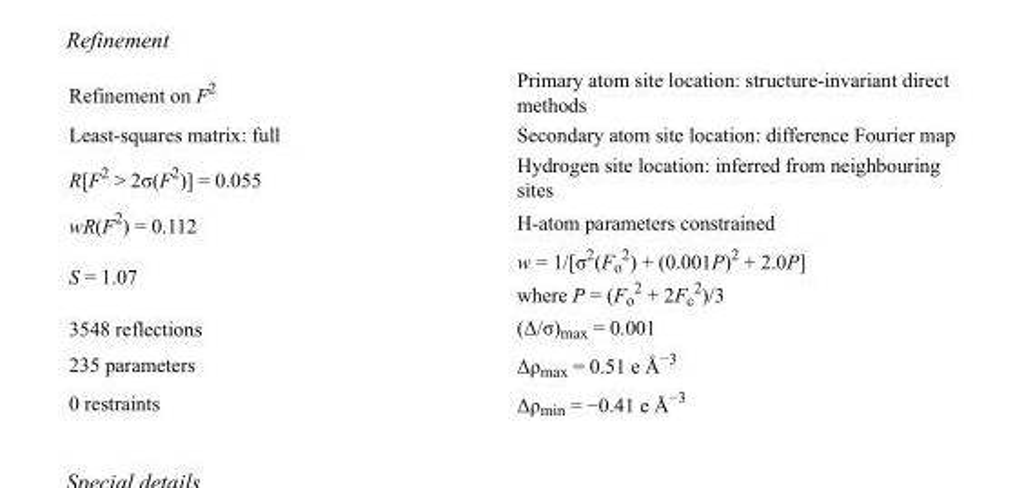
<table><tbody><tr><td>Refinement on F<sup>2</sup></td><td>Primary atom site location: structure-invariant direct methods</td></tr><tr><td>Least-squares matrix: full</td><td>Secondary atom site location: difference Fourier map</td></tr><tr><td>R[F<sup>2</sup> &gt; 2σ(F<sup>2</sup>)] = 0.055</td><td>Hydrogen site location: inferred from neighbouring sites</td></tr><tr><td>wR(F<sup>2</sup>) = 0.112</td><td>H-atom parameters constrained</td></tr><tr><td>S = 1.07</td><td>w = 1/[σ<sup>2</sup>(F<sub>o</sub> <sup>2</sup>) + (0.001P)<sup>2</sup> + 2.0P] where P = (F<sub>o</sub> <sup>2</sup> + 2F<sub>c</sub> <sup>2</sup>)/3</td></tr><tr><td>3548 reflections</td><td>(Δ/σ)<sub>max</sub> = 0.001</td></tr><tr><td>235 parameters</td><td>Δρ<sub>max</sub> = 0.51 e Å<sup>−3</sup></td></tr><tr><td>0 restraints</td><td>Δρ<sub>min</sub> = −0.41 e Å<sup>−3</sup></td></tr></tbody></table>